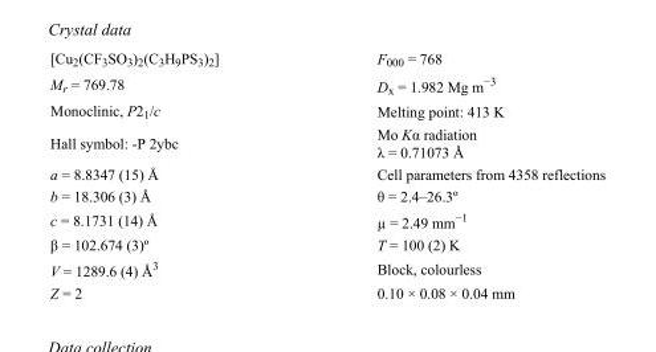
<table><tbody><tr><td>[Cu<sub>2</sub>(CF<sub>3</sub>SO<sub>3</sub>)<sub>2</sub>(C<sub>3</sub>H<sub>9</sub>PS<sub>3</sub>)<sub>2</sub>]</td><td>F000 = 768</td></tr><tr><td>M<sub>r</sub> = 769.78</td><td>D<sub>x</sub> = 1.982 Mg m<sup>−3</sup></td></tr><tr><td>Monoclinic, P2<sub>1</sub>/c</td><td>Melting point: 413 K</td></tr><tr><td>Hall symbol: -P 2ybc</td><td>Mo Kα radiation λ = 0.71073 Å</td></tr><tr><td>a = 8.8347 (15) Å</td><td>Cell parameters from 4358 reflections</td></tr><tr><td>b = 18.306 (3) Å</td><td>θ = 2.4–26.3º</td></tr><tr><td>c = 8.1731 (14) Å</td><td>µ = 2.49 mm<sup>−1</sup></td></tr><tr><td>β = 102.674 (3)º</td><td>T = 100 (2) K</td></tr><tr><td>V = 1289.6 (4) Å<sup>3</sup></td><td>Block, colourless</td></tr><tr><td>Z = 2</td><td>0.10 × 0.08 × 0.04 mm</td></tr></tbody></table>